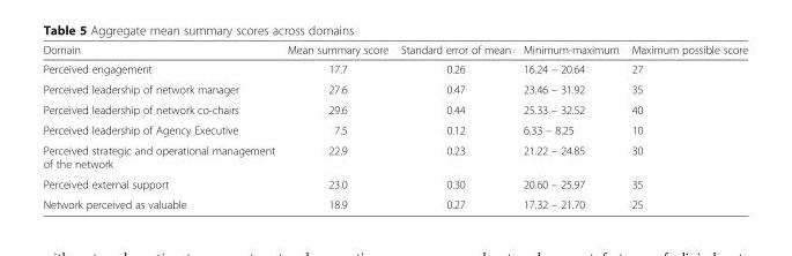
<table><thead><tr><td>Domain</td><td>Mean summary score</td><td>Standard error of mean</td><td>Minimum-maximum</td><td>Maximum possible score</td></tr></thead><tbody><tr><td>Perceived engagement</td><td>17.7</td><td>0.26</td><td>16.24 – 20.64</td><td>27</td></tr><tr><td>Perceived leadership of network manager</td><td>27.6</td><td>0.47</td><td>23.46 – 31.92</td><td>35</td></tr><tr><td>Perceived leadership of network co-chairs</td><td>29.6</td><td>0.44</td><td>25.33 – 32.52</td><td>40</td></tr><tr><td>Perceived leadership of Agency Executive</td><td>7.5</td><td>0.12</td><td>6.33 – 8.25</td><td>10</td></tr><tr><td>Perceived strategic and operational management of the network</td><td>22.9</td><td>0.23</td><td>21.22 – 24.85</td><td>30</td></tr><tr><td>Perceived external support</td><td>23.0</td><td>0.30</td><td>20.60 – 25.97</td><td>35</td></tr><tr><td>Network perceived as valuable</td><td>18.9</td><td>0.27</td><td>17.32 – 21.70</td><td>25</td></tr></tbody></table>